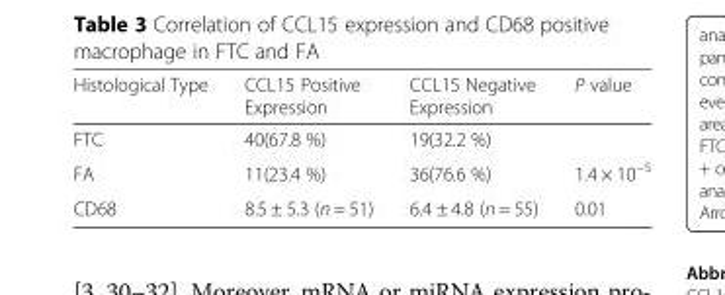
<table><thead><tr><td>Histological Type</td><td>CCL15 Positive Expression</td><td>CCL15 Negative Expression</td><td>P value</td></tr></thead><tbody><tr><td>FTC</td><td>40(67.8 %)</td><td>19(32.2 %)</td><td></td></tr><tr><td>FA</td><td>11(23.4 %)</td><td>36(76.6 %)</td><td>1.4 × 10<sup>−5</sup></td></tr><tr><td>CD68</td><td>8.5 ± 5.3 (n = 51)</td><td>6.4 ± 4.8 (n = 55)</td><td>0.01</td></tr></tbody></table>